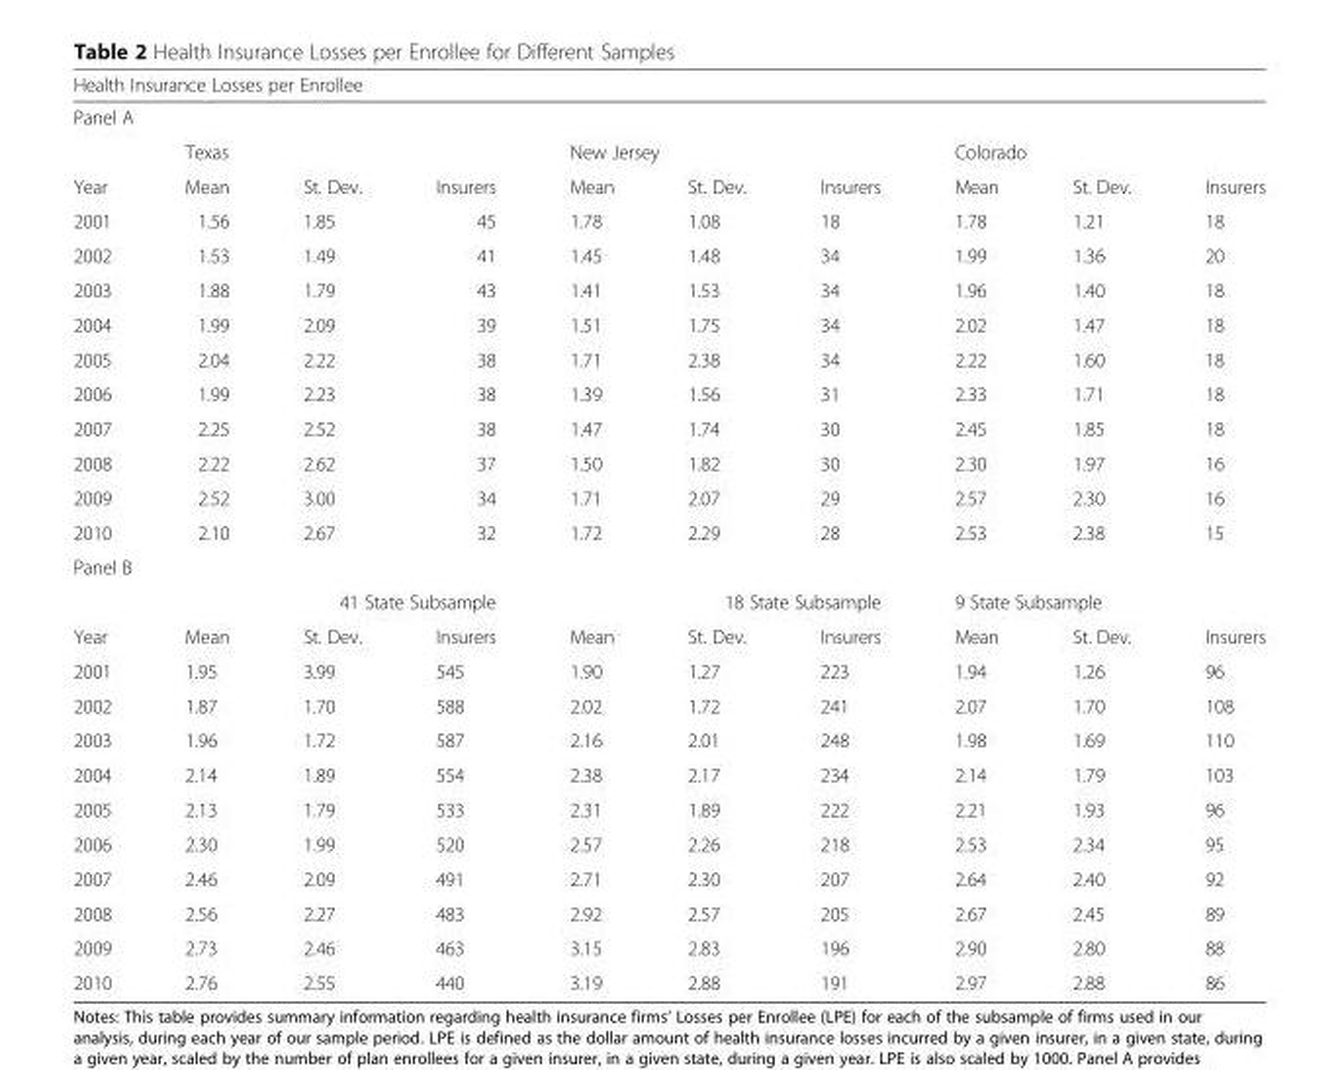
<table><thead><tr><td rowspan="2" colspan="10">Health Insurance Losses per Enrollee Panel A</td></tr><tr></tr><tr><td rowspan="2">Year</td><td colspan="3">Texas</td><td colspan="3">New Jersey</td><td colspan="3">Colorado</td></tr><tr><td>Mean</td><td>St. Dev.</td><td>Insurers</td><td>Mean</td><td>St. Dev.</td><td>Insurers</td><td>Mean</td><td>St. Dev.</td><td>Insurers</td></tr></thead><tbody><tr><td>2001</td><td>1.56</td><td>1.85</td><td>45</td><td>1.78</td><td>1.08</td><td>18</td><td>1.78</td><td>1.21</td><td>18</td></tr><tr><td>2002</td><td>1.53</td><td>1.49</td><td>41</td><td>1.45</td><td>1.48</td><td>34</td><td>1.99</td><td>1.36</td><td>20</td></tr><tr><td>2003</td><td>1.88</td><td>1.79</td><td>43</td><td>1.41</td><td>1.53</td><td>34</td><td>1.96</td><td>1.40</td><td>18</td></tr><tr><td>2004</td><td>1.99</td><td>2.09</td><td>39</td><td>1.51</td><td>1.75</td><td>34</td><td>2.02</td><td>1.47</td><td>18</td></tr><tr><td>2005</td><td>2.04</td><td>2.22</td><td>38</td><td>1.71</td><td>2.38</td><td>34</td><td>2.22</td><td>1.60</td><td>18</td></tr><tr><td>2006</td><td>1.99</td><td>2.23</td><td>38</td><td>1.39</td><td>1.56</td><td>31</td><td>2.33</td><td>1.71</td><td>18</td></tr><tr><td>2007</td><td>2.25</td><td>2.52</td><td>38</td><td>1.47</td><td>1.74</td><td>30</td><td>2.45</td><td>1.85</td><td>18</td></tr><tr><td>2008</td><td>2.22</td><td>2.62</td><td>37</td><td>1.50</td><td>1.82</td><td>30</td><td>2.30</td><td>1.97</td><td>16</td></tr><tr><td>2009</td><td>2.52</td><td>3.00</td><td>34</td><td>1.71</td><td>2.07</td><td>29</td><td>2.57</td><td>2.30</td><td>16</td></tr><tr><td>2010</td><td>2.10</td><td>2.67</td><td>32</td><td>1.72</td><td>2.29</td><td>28</td><td>2.53</td><td>2.38</td><td>15</td></tr><tr><td colspan="10">Panel B</td></tr><tr><td></td><td colspan="3">41 State Subsample</td><td colspan="3">18 State Subsample</td><td colspan="3">9 State Subsample</td></tr><tr><td>Year</td><td>Mean</td><td>St. Dev.</td><td>Insurers</td><td>Mean</td><td>St. Dev.</td><td>Insurers</td><td>Mean</td><td>St. Dev.</td><td>Insurers</td></tr><tr><td>2001</td><td>1.95</td><td>3.99</td><td>545</td><td>1.90</td><td>1.27</td><td>223</td><td>1.94</td><td>1.26</td><td>96</td></tr><tr><td>2002</td><td>1.87</td><td>1.70</td><td>588</td><td>2.02</td><td>1.72</td><td>241</td><td>2.07</td><td>1.70</td><td>108</td></tr><tr><td>2003</td><td>1.96</td><td>1.72</td><td>587</td><td>2.16</td><td>2.01</td><td>248</td><td>1.98</td><td>1.69</td><td>110</td></tr><tr><td>2004</td><td>2.14</td><td>1.89</td><td>554</td><td>2.38</td><td>2.17</td><td>234</td><td>2.14</td><td>1.79</td><td>103</td></tr><tr><td>2005</td><td>2.13</td><td>1.79</td><td>533</td><td>2.31</td><td>1.89</td><td>222</td><td>2.21</td><td>1.93</td><td>96</td></tr><tr><td>2006</td><td>2.30</td><td>1.99</td><td>520</td><td>2.57</td><td>2.26</td><td>218</td><td>2.53</td><td>2.34</td><td>95</td></tr><tr><td>2007</td><td>2.46</td><td>2.09</td><td>491</td><td>2.71</td><td>2.30</td><td>207</td><td>2.64</td><td>2.40</td><td>92</td></tr><tr><td>2008</td><td>2.56</td><td>2.27</td><td>483</td><td>2.92</td><td>2.57</td><td>205</td><td>2.67</td><td>2.45</td><td>89</td></tr><tr><td>2009</td><td>2.73</td><td>2.46</td><td>463</td><td>3.15</td><td>2.83</td><td>196</td><td>2.90</td><td>2.80</td><td>88</td></tr><tr><td>2010</td><td>2.76</td><td>2.55</td><td>440</td><td>3.19</td><td>2.88</td><td>191</td><td>2.97</td><td>2.88</td><td>86</td></tr></tbody></table>